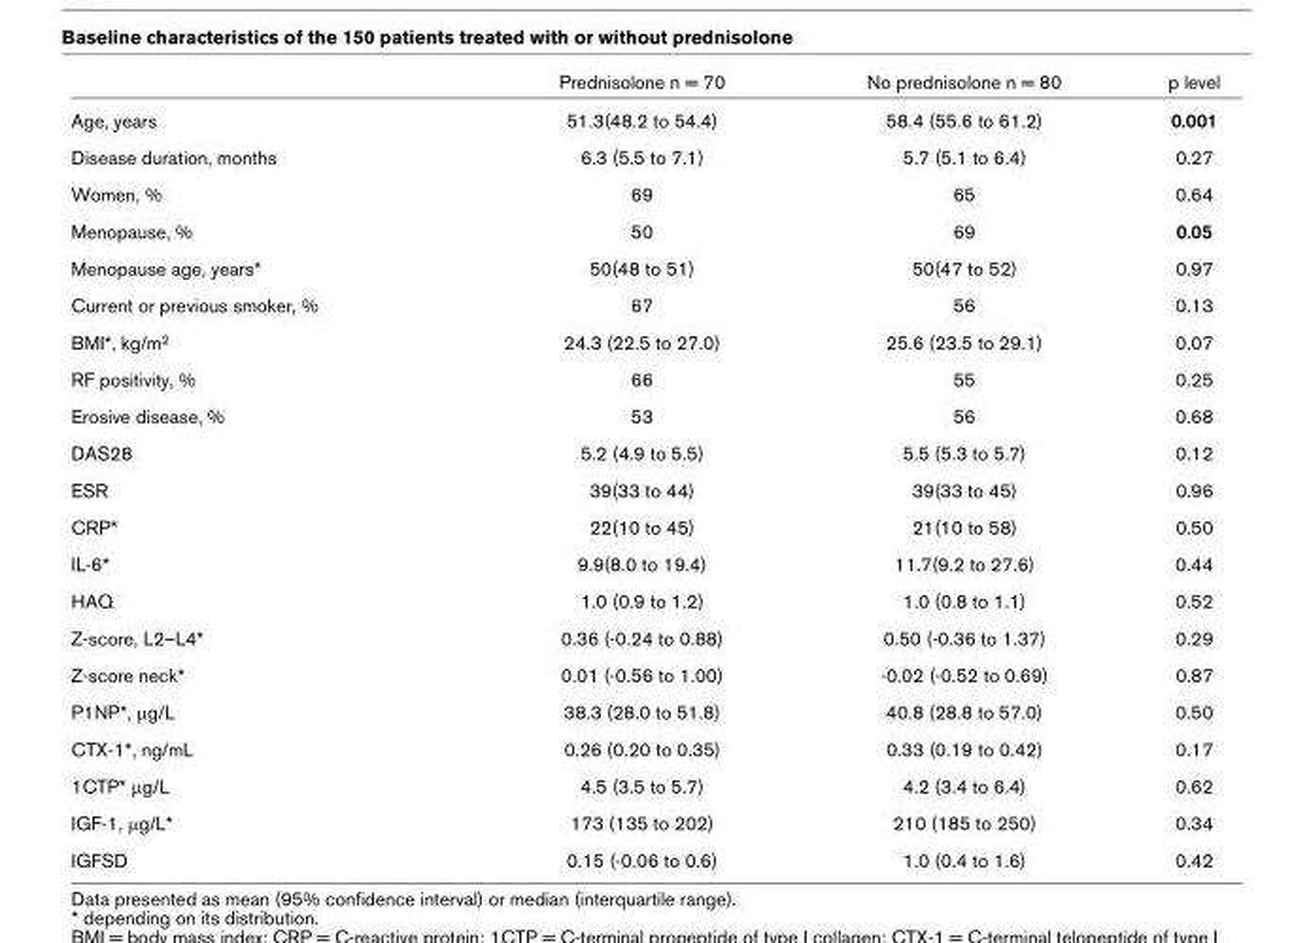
<table><thead><tr><td></td><td>Prednisolone n = 70</td><td>No prednisolone n = 80</td><td>p level</td></tr></thead><tbody><tr><td>Age, years</td><td>51.3(48.2 to 54.4)</td><td>58.4 (55.6 to 61.2)</td><td>0.001</td></tr><tr><td>Disease duration, months</td><td>6.3 (5.5 to 7.1)</td><td>5.7 (5.1 to 6.4)</td><td>0.27</td></tr><tr><td>Women, %</td><td>69</td><td>65</td><td>0.64</td></tr><tr><td>Menopause, %</td><td>50</td><td>69</td><td>0.05</td></tr><tr><td>Menopause age, years*</td><td>50(48 to 51)</td><td>50(47 to 52)</td><td>0.97</td></tr><tr><td>Current or previous smoker, %</td><td>67</td><td>56</td><td>0.13</td></tr><tr><td>BMI*, kg/m<sup>2</sup></td><td>24.3 (22.5 to 27.0)</td><td>25.6 (23.5 to 29.1)</td><td>0.07</td></tr><tr><td>RF positivity, %</td><td>66</td><td>55</td><td>0.25</td></tr><tr><td>Erosive disease, %</td><td>53</td><td>56</td><td>0.68</td></tr><tr><td>DAS28</td><td>5.2 (4.9 to 5.5)</td><td>5.5 (5.3 to 5.7)</td><td>0.12</td></tr><tr><td>ESR</td><td>39(33 to 44)</td><td>39(33 to 45)</td><td>0.96</td></tr><tr><td>CRP*</td><td>22(10 to 45)</td><td>21(10 to 58)</td><td>0.50</td></tr><tr><td>IL-6*</td><td>9.9(8.0 to 19.4)</td><td>11.7(9.2 to 27.6)</td><td>0.44</td></tr><tr><td>HAQ</td><td>1.0 (0.9 to 1.2)</td><td>1.0 (0.8 to 1.1)</td><td>0.52</td></tr><tr><td>Z-score, L2–L4*</td><td>0.36 (-0.24 to 0.88)</td><td>0.50 (-0.36 to 1.37)</td><td>0.29</td></tr><tr><td>Z-score neck*</td><td>0.01 (-0.56 to 1.00)</td><td>-0.02 (-0.52 to 0.69)</td><td>0.87</td></tr><tr><td>P1NP*, μg/L</td><td>38.3 (28.0 to 51.8)</td><td>40.8 (28.8 to 57.0)</td><td>0.50</td></tr><tr><td>CTX-1*, ng/mL</td><td>0.26 (0.20 to 0.35)</td><td>0.33 (0.19 to 0.42)</td><td>0.17</td></tr><tr><td>1CTP* μg/L</td><td>4.5 (3.5 to 5.7)</td><td>4.2 (3.4 to 6.4)</td><td>0.62</td></tr><tr><td>IGF-1, μg/L*</td><td>173 (135 to 202)</td><td>210 (185 to 250)</td><td>0.34</td></tr><tr><td>IGFSD</td><td>0.15 (-0.06 to 0.6)</td><td>1.0 (0.4 to 1.6)</td><td>0.42</td></tr></tbody></table>